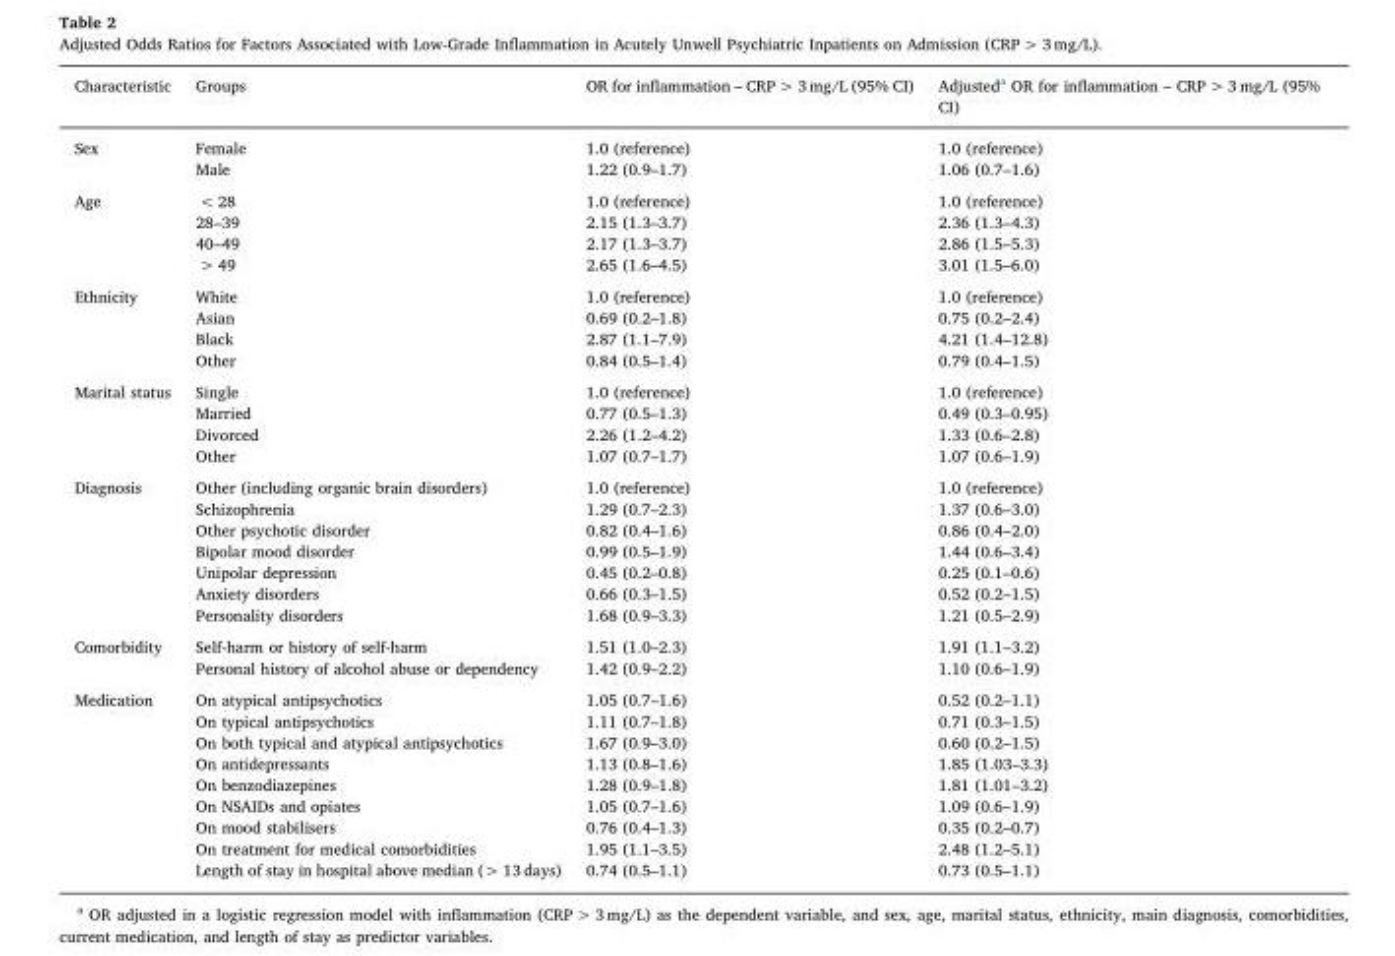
<table><thead><tr><td>Characteristic</td><td>Groups</td><td>OR for inflammation – CRP &gt; 3 mg/L (95% CI)</td><td>Adjusted<sup>a</sup> OR for inflammation – CRP &gt; 3 mg/L (95% CI)</td></tr></thead><tbody><tr><td rowspan="2">Sex</td><td>Female</td><td>1.0 (reference)</td><td>1.0 (reference)</td></tr><tr><td>Male</td><td>1.22 (0.9–1.7)</td><td>1.06 (0.7–1.6)</td></tr><tr><td rowspan="4">Age</td><td>&lt; 28</td><td>1.0 (reference)</td><td>1.0 (reference)</td></tr><tr><td>28–39</td><td>2.15 (1.3–3.7)</td><td>2.36 (1.3–4.3)</td></tr><tr><td>40–49</td><td>2.17 (1.3–3.7)</td><td>2.86 (1.5–5.3)</td></tr><tr><td>&gt; 49</td><td>2.65 (1.6–4.5)</td><td>3.01 (1.5–6.0)</td></tr><tr><td rowspan="4">Ethnicity</td><td>White</td><td>1.0 (reference)</td><td>1.0 (reference)</td></tr><tr><td>Asian</td><td>0.69 (0.2–1.8)</td><td>0.75 (0.2–2.4)</td></tr><tr><td>Black</td><td>2.87 (1.1–7.9)</td><td>4.21 (1.4–12.8)</td></tr><tr><td>Other</td><td>0.84 (0.5–1.4)</td><td>0.79 (0.4–1.5)</td></tr><tr><td rowspan="4">Marital status</td><td>Single</td><td>1.0 (reference)</td><td>1.0 (reference)</td></tr><tr><td>Married</td><td>0.77 (0.5–1.3)</td><td>0.49 (0.3–0.95)</td></tr><tr><td>Divorced</td><td>2.26 (1.2–4.2)</td><td>1.33 (0.6–2.8)</td></tr><tr><td>Other</td><td>1.07 (0.7–1.7)</td><td>1.07 (0.6–1.9)</td></tr><tr><td rowspan="7">Diagnosis</td><td>Other (including organic brain disorders)</td><td>1.0 (reference)</td><td>1.0 (reference)</td></tr><tr><td>Schizophrenia</td><td>1.29 (0.7–2.3)</td><td>1.37 (0.6–3.0)</td></tr><tr><td>Other psychotic disorder</td><td>0.82 (0.4–1.6)</td><td>0.86 (0.4–2.0)</td></tr><tr><td>Bipolar mood disorder</td><td>0.99 (0.5–1.9)</td><td>1.44 (0.6–3.4)</td></tr><tr><td>Unipolar depression</td><td>0.45 (0.2–0.8)</td><td>0.25 (0.1–0.6)</td></tr><tr><td>Anxiety disorders</td><td>0.66 (0.3–1.5)</td><td>0.52 (0.2–1.5)</td></tr><tr><td>Personality disorders</td><td>1.68 (0.9–3.3)</td><td>1.21 (0.5–2.9)</td></tr><tr><td rowspan="2">Comorbidity</td><td>Self-harm or history of self-harm</td><td>1.51 (1.0–2.3)</td><td>1.91 (1.1–3.2)</td></tr><tr><td>Personal history of alcohol abuse or dependency</td><td>1.42 (0.9–2.2)</td><td>1.10 (0.6–1.9)</td></tr><tr><td rowspan="9">Medication</td><td>On atypical antipsychotics</td><td>1.05 (0.7–1.6)</td><td>0.52 (0.2–1.1)</td></tr><tr><td>On typical antipsychotics</td><td>1.11 (0.7–1.8)</td><td>0.71 (0.3–1.5)</td></tr><tr><td>On both typical and atypical antipsychotics</td><td>1.67 (0.9–3.0)</td><td>0.60 (0.2–1.5)</td></tr><tr><td>On antidepressants</td><td>1.13 (0.8–1.6)</td><td>1.85 (1.03–3.3)</td></tr><tr><td>On benzodiazepines</td><td>1.28 (0.9–1.8)</td><td>1.81 (1.01–3.2)</td></tr><tr><td>On NSAIDs and opiates</td><td>1.05 (0.7–1.6)</td><td>1.09 (0.6–1.9)</td></tr><tr><td>On mood stabilisers</td><td>0.76 (0.4–1.3)</td><td>0.35 (0.2–0.7)</td></tr><tr><td>On treatment for medical comorbidities</td><td>1.95 (1.1–3.5)</td><td>2.48 (1.2–5.1)</td></tr><tr><td>Length of stay in hospital above median (&gt; 13 days)</td><td>0.74 (0.5–1.1)</td><td>0.73 (0.5–1.1)</td></tr></tbody></table>